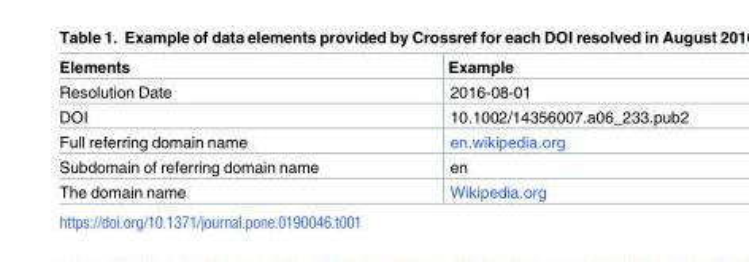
<table><thead><tr><td>Elements</td><td>Example</td></tr></thead><tbody><tr><td>Resolution Date</td><td>2016-08-01</td></tr><tr><td>DOI</td><td>10.1002/14356007.a06_233.pub2</td></tr><tr><td>Full referring domain name</td><td>en.wikipedia.org</td></tr><tr><td>Subdomain of referring domain name</td><td>en</td></tr><tr><td>The domain name</td><td>Wikipedia.org</td></tr></tbody></table>